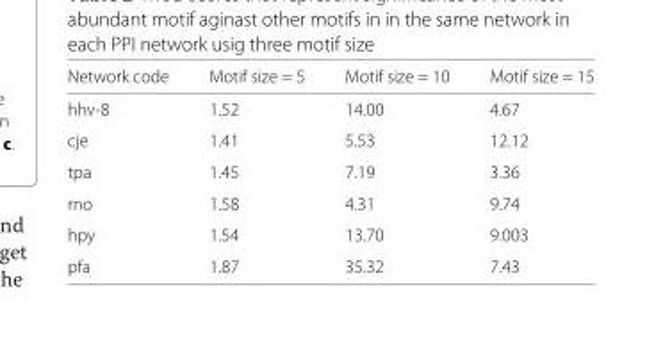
<table><thead><tr><td>Network code</td><td>Motif size = 5</td><td>Motif size = 10</td><td>Motif size = 15</td></tr></thead><tbody><tr><td>hhv-8</td><td>1.52</td><td>14.00</td><td>4.67</td></tr><tr><td>cje</td><td>1.41</td><td>5.53</td><td>12.12</td></tr><tr><td>tpa</td><td>1.45</td><td>7.19</td><td>3.36</td></tr><tr><td>rno</td><td>1.58</td><td>4.31</td><td>9.74</td></tr><tr><td>hpy</td><td>1.54</td><td>13.70</td><td>9.003</td></tr><tr><td>pfa</td><td>1.87</td><td>35.32</td><td>7.43</td></tr></tbody></table>